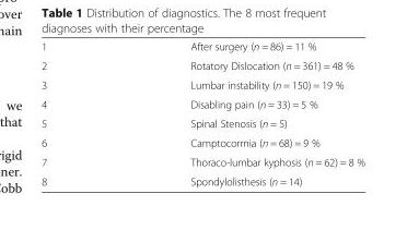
<table><tbody><tr><td>1</td><td>After surgery (n = 86) = 11 %</td></tr><tr><td>2</td><td>Rotatory Dislocation (n = 361) = 48 %</td></tr><tr><td>3</td><td>Lumbar instability (n = 150) = 19 %</td></tr><tr><td>4</td><td>Disabling pain (n = 33) = 5 %</td></tr><tr><td>5</td><td>Spinal Stenosis (n = 5)</td></tr><tr><td>6</td><td>Camptocormia (n = 68) = 9 %</td></tr><tr><td>7</td><td>Thoraco-lumbar kyphosis (n = 62) = 8 %</td></tr><tr><td>8</td><td>Spondylolisthesis (n = 14)</td></tr></tbody></table>